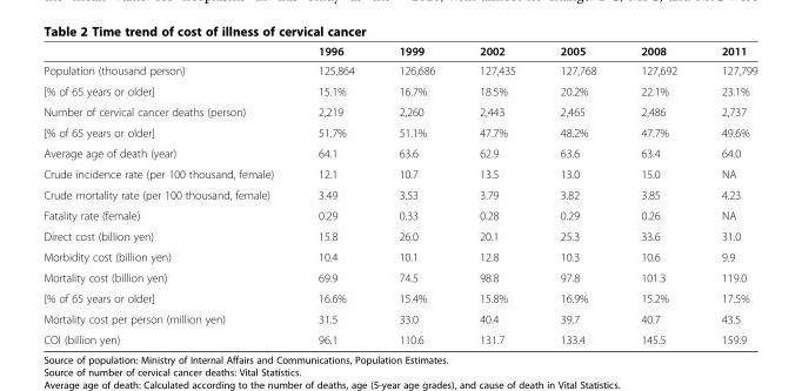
<table><thead><tr><td></td><td>1996</td><td>1999</td><td>2002</td><td>2005</td><td>2008</td><td>2011</td></tr></thead><tbody><tr><td>Population (thousand person)</td><td>125,864</td><td>126,686</td><td>127,435</td><td>127,768</td><td>127,692</td><td>127,799</td></tr><tr><td>[% of 65 years or older]</td><td>15.1%</td><td>16.7%</td><td>18.5%</td><td>20.2%</td><td>22.1%</td><td>23.1%</td></tr><tr><td>Number of cervical cancer deaths (person)</td><td>2,219</td><td>2,260</td><td>2,443</td><td>2,465</td><td>2,486</td><td>2,737</td></tr><tr><td>[% of 65 years or older]</td><td>51.7%</td><td>51.1%</td><td>47.7%</td><td>48.2%</td><td>47.7%</td><td>49.6%</td></tr><tr><td>Average age of death (year)</td><td>64.1</td><td>63.6</td><td>62.9</td><td>63.6</td><td>63.4</td><td>64.0</td></tr><tr><td>Crude incidence rate (per 100 thousand, female)</td><td>12.1</td><td>10.7</td><td>13.5</td><td>13.0</td><td>15.0</td><td>NA</td></tr><tr><td>Crude mortality rate (per 100 thousand, female)</td><td>3.49</td><td>3.53</td><td>3.79</td><td>3.82</td><td>3.85</td><td>4.23</td></tr><tr><td>Fatality rate (female)</td><td>0.29</td><td>0.33</td><td>0.28</td><td>0.29</td><td>0.26</td><td>NA</td></tr><tr><td>Direct cost (billion yen)</td><td>15.8</td><td>26.0</td><td>20.1</td><td>25.3</td><td>33.6</td><td>31.0</td></tr><tr><td>Morbidity cost (billion yen)</td><td>10.4</td><td>10.1</td><td>12.8</td><td>10.3</td><td>10.6</td><td>9.9</td></tr><tr><td>Mortality cost (billion yen)</td><td>69.9</td><td>74.5</td><td>98.8</td><td>97.8</td><td>101.3</td><td>119.0</td></tr><tr><td>[% of 65 years or older]</td><td>16.6%</td><td>15.4%</td><td>15.8%</td><td>16.9%</td><td>15.2%</td><td>17.5%</td></tr><tr><td>Mortality cost per person (million yen)</td><td>31.5</td><td>33.0</td><td>40.4</td><td>39.7</td><td>40.7</td><td>43.5</td></tr><tr><td>COI (billion yen)</td><td>96.1</td><td>110.6</td><td>131.7</td><td>133.4</td><td>145.5</td><td>159.9</td></tr></tbody></table>